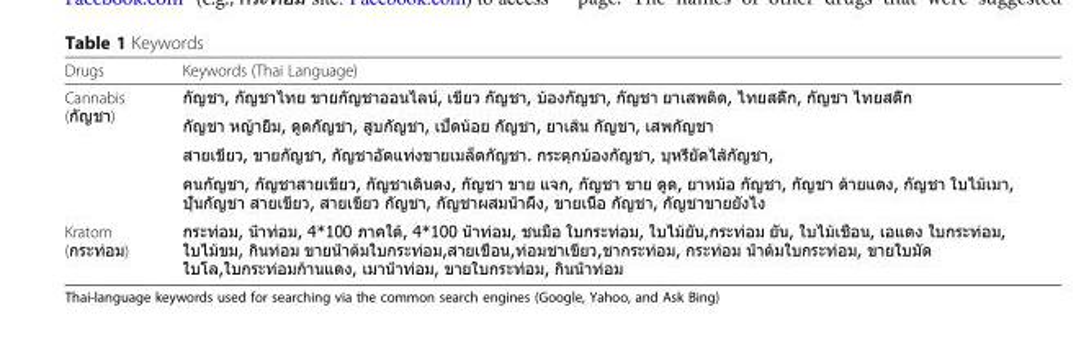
<table><thead><tr><td>Drugs</td><td>Keywords (Thai Language)</td></tr></thead><tbody><tr><td rowspan="4">Cannabis (กัญชา)</td><td>กัญชา, กัญชาไทย ขายกัญชาออนไลน์, เขียว กัญชา, บ้องกัญชา, กัญชา ยาเสพติด, ไทยสติ๊ก, กัญชา ไทยสติ๊ก</td></tr><tr><td>กัญชา หญ้ายิ้ม, ดูดกัญชา, สูบกัญชา, เป็ดน้อย กัญชา, ยาเส้น กัญชา, เสพกัญชา</td></tr><tr><td>สายเขียว, ขายกัญชา, กัญชาอัดแท่งขายเมล็ดกัญชา. กระตุกบ้องกัญชา, บุหรี่ยัดไส้กัญชา,</td></tr><tr><td>คนกัญชา, กัญชาสายเขียว, กัญชาเดินดง, กัญชา ขาย แจก, กัญชา ขาย ดูด, ยาหม้อ กัญชา, กัญชา ด้ายแดง, กัญชา ใบไม้เมา, ปุ๊นกัญชา สายเขียว, สายเขียว กัญชา, กัญชาผสมน้ำผึ้ง, ขายเนื้อ กัญชา, กัญชาขายยังไง</td></tr><tr><td>Kratom (กระท่อม)</td><td>กระท่อม, น้ำท่อม, 4*100 ภาคใต้, 4*100 น้ำท่อม, ชนมือ ใบกระท่อม, ใบไม้ยัน,กระท่อม ยัน, ใบไม้เชือน, เอแดง ใบกระท่อม, ใบไม้ขม, กินท่อม ขายน้ำต้มใบกระท่อม,สายเชือน,ท่อมชาเขียว,ชากระท่อม, กระท่อม น้ำต้มใบกระท่อม, ขายใบมัด ใบโล,ใบกระท่อมก้านแดง, เมาน้ำท่อม, ขายใบกระท่อม, กินน้ำท่อม</td></tr></tbody></table>